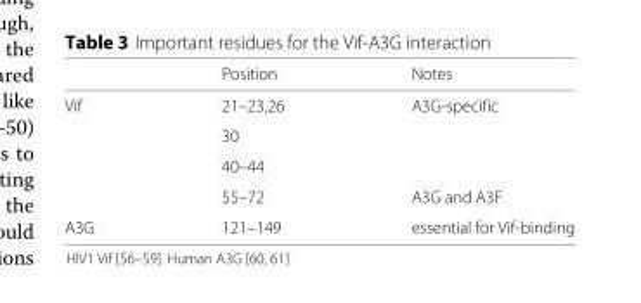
<table><thead><tr><td></td><td>Position</td><td>Notes</td></tr></thead><tbody><tr><td rowspan="4">Vif</td><td>21–23,26</td><td>A3G-specific</td></tr><tr><td>30</td><td></td></tr><tr><td>40–44</td><td></td></tr><tr><td>55–72</td><td>A3G and A3F</td></tr><tr><td>A3G</td><td>121–149</td><td>essential for Vif-binding</td></tr></tbody></table>